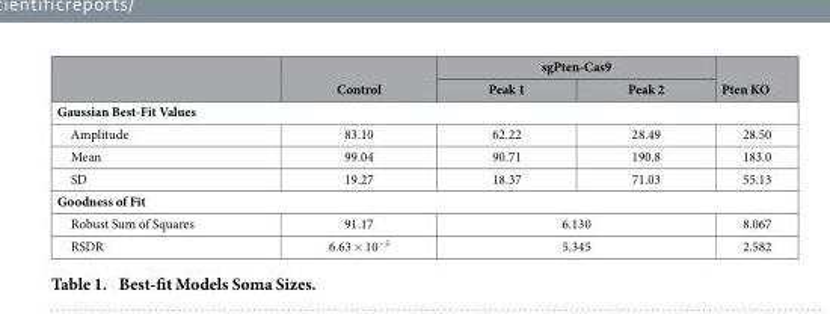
<table><thead><tr><td rowspan="2"></td><td rowspan="2">Control</td><td colspan="2">sgPten-Cas9</td><td rowspan="2">Pten KO</td></tr><tr><td>Peak 1</td><td>Peak 2</td></tr></thead><tbody><tr><td colspan="5">Gaussian Best-Fit Values</td></tr><tr><td>Amplitude</td><td>83.10</td><td>62.22</td><td>28.49</td><td>28.50</td></tr><tr><td>Mean</td><td>99.04</td><td>90.71</td><td>190.8</td><td>183.0</td></tr><tr><td>SD</td><td>19.27</td><td>18.37</td><td>71.03</td><td>55.13</td></tr><tr><td colspan="5">Goodness of Fit</td></tr><tr><td>Robust Sum of Squares</td><td>91.17</td><td colspan="2">6.130</td><td>8.067</td></tr><tr><td>RSDR</td><td>6.63 × 10<sup>−5</sup></td><td colspan="2">5.345</td><td>2.582</td></tr></tbody></table>